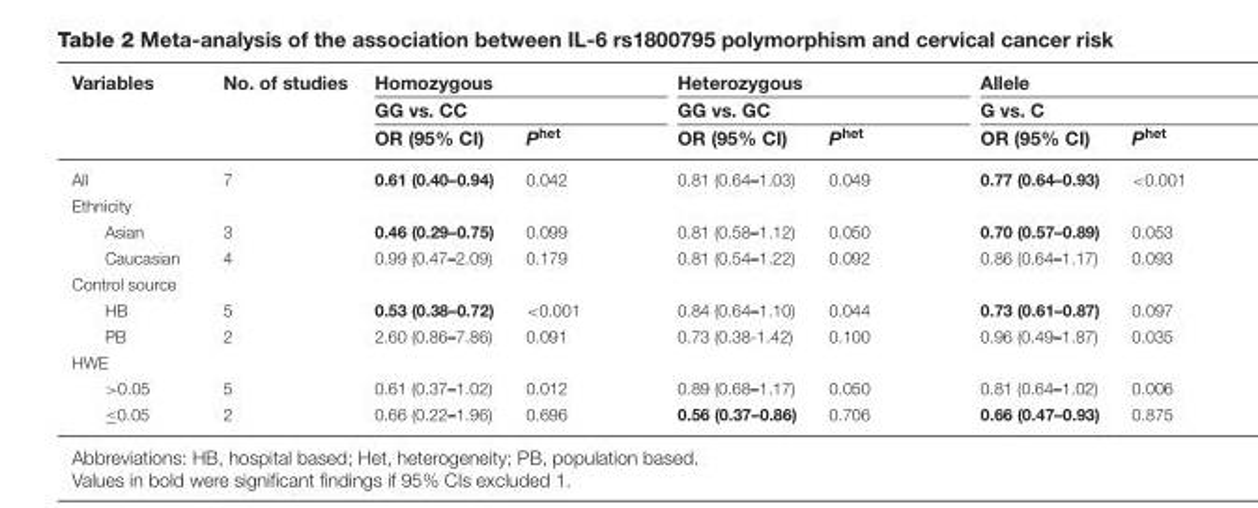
<table><thead><tr><td rowspan="3">Variables</td><td rowspan="3">No. of studies</td><td rowspan="2" colspan="2">Homozygous GG vs. CC</td><td rowspan="2" colspan="2">Heterozygous GG vs. GC</td><td rowspan="2" colspan="2">Allele G vs. C</td></tr><tr></tr><tr><td>OR (95% CI)</td><td>P<sup>het</sup></td><td>OR (95% CI)</td><td>P<sup>het</sup></td><td>OR (95% CI)</td><td>P<sup>het</sup></td></tr></thead><tbody><tr><td>All</td><td>7</td><td>0.61 (0.40–0.94)</td><td>0.042</td><td>0.81 (0.64–1.03)</td><td>0.049</td><td>0.77 (0.64–0.93)</td><td>&lt;0.001</td></tr><tr><td colspan="8">Ethnicity</td></tr><tr><td>Asian</td><td>3</td><td>0.46 (0.29–0.75)</td><td>0.099</td><td>0.81 (0.58–1.12)</td><td>0.050</td><td>0.70 (0.57–0.89)</td><td>0.053</td></tr><tr><td>Caucasian</td><td>4</td><td>0.99 (0.47–2.09)</td><td>0.179</td><td>0.81 (0.54–1.22)</td><td>0.092</td><td>0.86 (0.64–1.17)</td><td>0.093</td></tr><tr><td colspan="8">Control source</td></tr><tr><td>HB</td><td>5</td><td>0.53 (0.38–0.72)</td><td>&lt;0.001</td><td>0.84 (0.64–1.10)</td><td>0.044</td><td>0.73 (0.61–0.87)</td><td>0.097</td></tr><tr><td>PB</td><td>2</td><td>2.60 (0.86–7.86)</td><td>0.091</td><td>0.73 (0.38-1.42)</td><td>0.100</td><td>0.96 (0.49–1.87)</td><td>0.035</td></tr><tr><td colspan="8">HWE</td></tr><tr><td>&gt;0.05</td><td>5</td><td>0.61 (0.37–1.02)</td><td>0.012</td><td>0.89 (0.68–1.17)</td><td>0.050</td><td>0.81 (0.64–1.02)</td><td>0.006</td></tr><tr><td>≤0.05</td><td>2</td><td>0.66 (0.22–1.96)</td><td>0.696</td><td>0.56 (0.37–0.86)</td><td>0.706</td><td>0.66 (0.47–0.93)</td><td>0.875</td></tr></tbody></table>